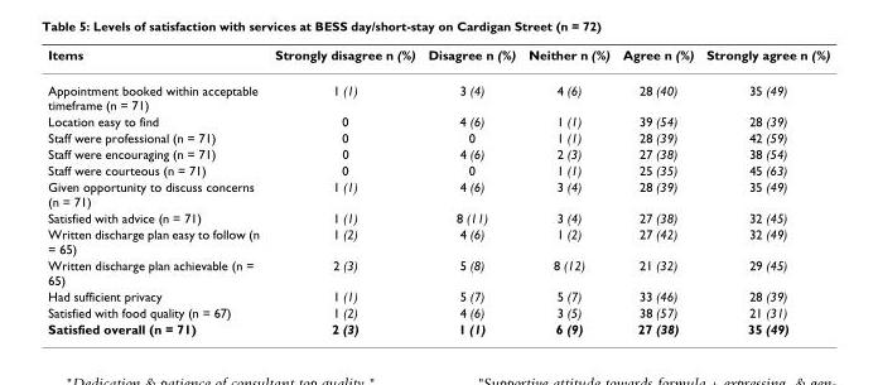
<table><thead><tr><td>Items</td><td>Strongly disagree n (%)</td><td>Disagree n (%)</td><td>Neither n (%)</td><td>Agree n (%)</td><td>Strongly agree n (%)</td></tr></thead><tbody><tr><td>Appointment booked within acceptable timeframe (n = 71)</td><td>1 (1)</td><td>3 (4)</td><td>4 (6)</td><td>28 (40)</td><td>35 (49)</td></tr><tr><td>Location easy to find</td><td>0</td><td>4 (6)</td><td>1 (1)</td><td>39 (54)</td><td>28 (39)</td></tr><tr><td>Staff were professional (n = 71)</td><td>0</td><td>0</td><td>1 (1)</td><td>28 (39)</td><td>42 (59)</td></tr><tr><td>Staff were encouraging (n = 71)</td><td>0</td><td>4 (6)</td><td>2 (3)</td><td>27 (38)</td><td>38 (54)</td></tr><tr><td>Staff were courteous (n = 71)</td><td>0</td><td>0</td><td>1 (1)</td><td>25 (35)</td><td>45 (63)</td></tr><tr><td>Given opportunity to discuss concerns (n = 71)</td><td>1 (1)</td><td>4 (6)</td><td>3 (4)</td><td>28 (39)</td><td>35 (49)</td></tr><tr><td>Satisfied with advice (n = 71)</td><td>1 (1)</td><td>8 (11)</td><td>3 (4)</td><td>27 (38)</td><td>32 (45)</td></tr><tr><td>Written discharge plan easy to follow (n = 65)</td><td>1 (2)</td><td>4 (6)</td><td>1 (2)</td><td>27 (42)</td><td>32 (49)</td></tr><tr><td>Written discharge plan achievable (n = 65)</td><td>2 (3)</td><td>5 (8)</td><td>8 (12)</td><td>21 (32)</td><td>29 (45)</td></tr><tr><td>Had sufficient privacy</td><td>1 (1)</td><td>5 (7)</td><td>5 (7)</td><td>33 (46)</td><td>28 (39)</td></tr><tr><td>Satisfied with food quality (n = 67)</td><td>1 (2)</td><td>4 (6)</td><td>3 (5)</td><td>38 (57)</td><td>21 (31)</td></tr><tr><td>Satisfied overall (n = 71)</td><td>2 (3)</td><td>1 (1)</td><td>6 (9)</td><td>27 (38)</td><td>35 (49)</td></tr></tbody></table>